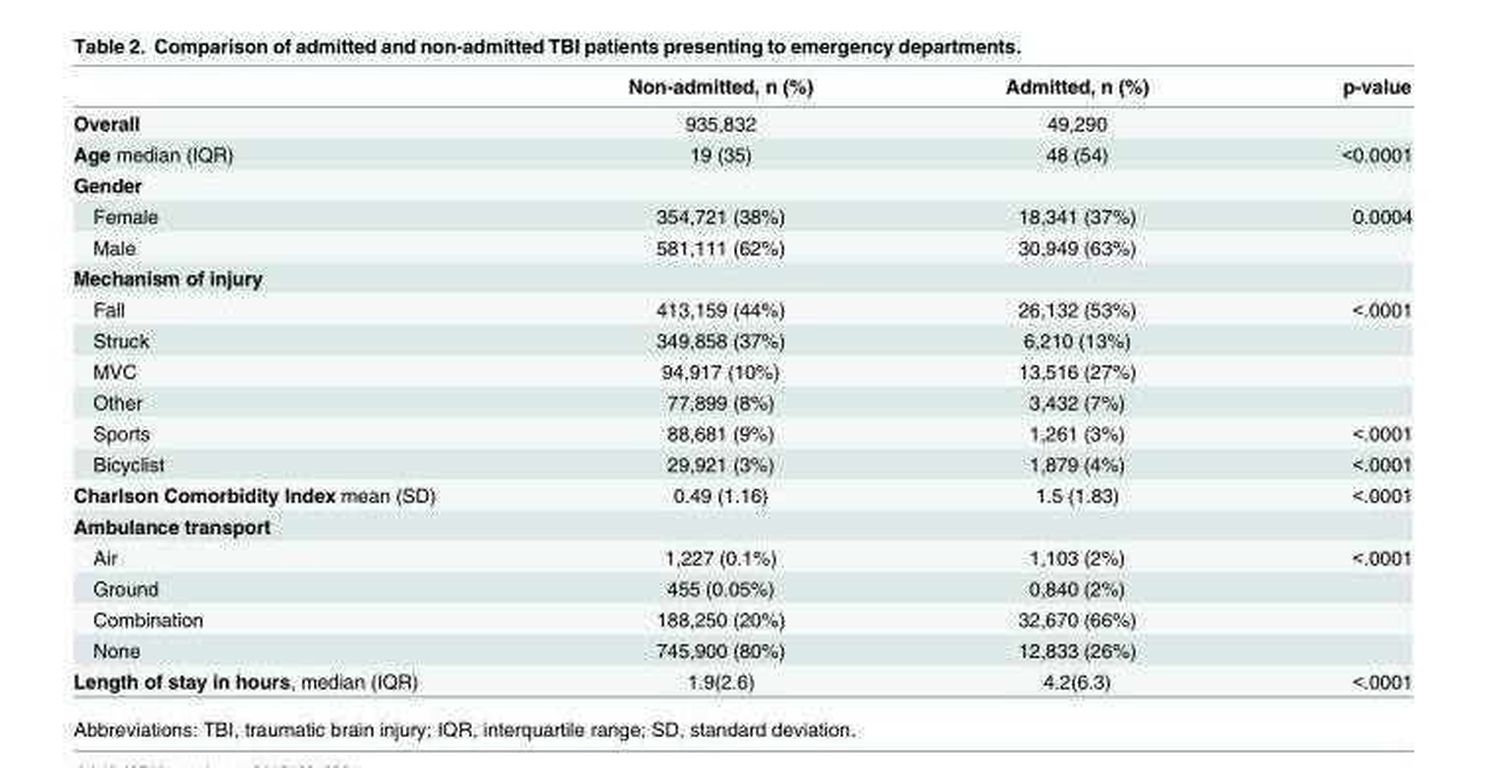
<table><thead><tr><td></td><td>Non-admitted, n (%)</td><td>Admitted, n (%)</td><td>p-value</td></tr></thead><tbody><tr><td>Overall</td><td>935,832</td><td>49,290</td><td></td></tr><tr><td>Age median (IQR)</td><td>19 (35)</td><td>48 (54)</td><td>&lt;0.0001</td></tr><tr><td colspan="4">Gender</td></tr><tr><td>Female</td><td>354,721 (38%)</td><td>18,341 (37%)</td><td>0.0004</td></tr><tr><td>Male</td><td>581,111 (62%)</td><td>30,949 (63%)</td><td></td></tr><tr><td colspan="4">Mechanism of injury</td></tr><tr><td>Fall</td><td>413,159 (44%)</td><td>26,132 (53%)</td><td>&lt;.0001</td></tr><tr><td>Struck</td><td>349,858 (37%)</td><td>6,210 (13%)</td><td></td></tr><tr><td>MVC</td><td>94,917 (10%)</td><td>13,516 (27%)</td><td></td></tr><tr><td>Other</td><td>77,899 (8%)</td><td>3,432 (7%)</td><td></td></tr><tr><td>Sports</td><td>88,681 (9%)</td><td>1,261 (3%)</td><td>&lt;.0001</td></tr><tr><td>Bicyclist</td><td>29,921 (3%)</td><td>1,879 (4%)</td><td>&lt;.0001</td></tr><tr><td>Charlson Comorbidity Index mean (SD)</td><td>0.49 (1.16)</td><td>1.5 (1.83)</td><td>&lt;.0001</td></tr><tr><td colspan="4">Ambulance transport</td></tr><tr><td>Air</td><td>1,227 (0.1%)</td><td>1,103 (2%)</td><td>&lt;.0001</td></tr><tr><td>Ground</td><td>455 (0.05%)</td><td>0,840 (2%)</td><td></td></tr><tr><td>Combination</td><td>188,250 (20%)</td><td>32,670 (66%)</td><td></td></tr><tr><td>None</td><td>745,900 (80%)</td><td>12,833 (26%)</td><td></td></tr><tr><td>Length of stay in hours, median (IQR)</td><td>1.9(2.6)</td><td>4.2(6.3)</td><td>&lt;.0001</td></tr></tbody></table>